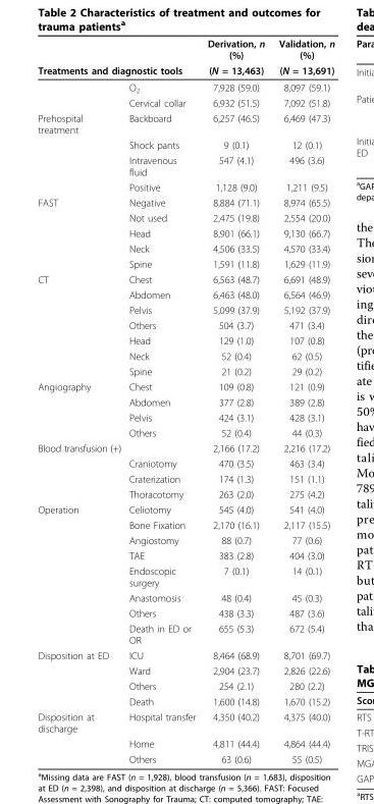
<table><thead><tr><td></td><td></td><td rowspan="2">Derivation, n (%) (N = 13,463)</td><td rowspan="2">Validation, n (%) (N = 13,691)</td></tr><tr><td colspan="2">Treatments and diagnostic tools</td></tr></thead><tbody><tr><td></td><td>O<sub>2</sub></td><td>7,928 (59.0)</td><td>8,097 (59.1)</td></tr><tr><td></td><td>Cervical collar</td><td>6,932 (51.5)</td><td>7,092 (51.8)</td></tr><tr><td rowspan="4">Prehospital treatment</td><td>Backboard</td><td>6,257 (46.5)</td><td>6,469 (47.3)</td></tr><tr><td>Shock pants</td><td>9 (0.1)</td><td>12 (0.1)</td></tr><tr><td>Intravenous fluid</td><td>547 (4.1)</td><td>496 (3.6)</td></tr><tr><td>Positive</td><td>1,128 (9.0)</td><td>1,211 (9.5)</td></tr><tr><td rowspan="5">FAST</td><td>Negative</td><td>8,884 (71.1)</td><td>8,974 (65.5)</td></tr><tr><td>Not used</td><td>2,475 (19.8)</td><td>2,554 (20.0)</td></tr><tr><td>Head</td><td>8,901 (66.1)</td><td>9,130 (66.7)</td></tr><tr><td>Neck</td><td>4,506 (33.5)</td><td>4,570 (33.4)</td></tr><tr><td>Spine</td><td>1,591 (11.8)</td><td>1,629 (11.9)</td></tr><tr><td rowspan="7">CT</td><td>Chest</td><td>6,563 (48.7)</td><td>6,691 (48.9)</td></tr><tr><td>Abdomen</td><td>6,463 (48.0)</td><td>6,564 (46.9)</td></tr><tr><td>Pelvis</td><td>5,099 (37.9)</td><td>5,192 (37.9)</td></tr><tr><td>Others</td><td>504 (3.7)</td><td>471 (3.4)</td></tr><tr><td>Head</td><td>129 (1.0)</td><td>107 (0.8)</td></tr><tr><td>Neck</td><td>52 (0.4)</td><td>62 (0.5)</td></tr><tr><td>Spine</td><td>21 (0.2)</td><td>29 (0.2)</td></tr><tr><td rowspan="4">Angiography</td><td>Chest</td><td>109 (0.8)</td><td>121 (0.9)</td></tr><tr><td>Abdomen</td><td>377 (2.8)</td><td>389 (2.8)</td></tr><tr><td>Pelvis</td><td>424 (3.1)</td><td>428 (3.1)</td></tr><tr><td>Others</td><td>52 (0.4)</td><td>44 (0.3)</td></tr><tr><td rowspan="4">Blood transfusion (+)</td><td></td><td>2,166 (17.2)</td><td>2,216 (17.2)</td></tr><tr><td>Craniotomy</td><td>470 (3.5)</td><td>463 (3.4)</td></tr><tr><td>Craterization</td><td>174 (1.3)</td><td>151 (1.1)</td></tr><tr><td>Thoracotomy</td><td>263 (2.0)</td><td>275 (4.2)</td></tr><tr><td rowspan="8">Operation</td><td>Celiotomy</td><td>545 (4.0)</td><td>541 (4.0)</td></tr><tr><td>Bone Fixation</td><td>2,170 (16.1)</td><td>2,117 (15.5)</td></tr><tr><td>Angiostomy</td><td>88 (0.7)</td><td>77 (0.6)</td></tr><tr><td>TAE</td><td>383 (2.8)</td><td>404 (3.0)</td></tr><tr><td>Endoscopic surgery</td><td>7 (0.1)</td><td>14 (0.1)</td></tr><tr><td>Anastomosis</td><td>48 (0.4)</td><td>45 (0.3)</td></tr><tr><td>Others</td><td>438 (3.3)</td><td>487 (3.6)</td></tr><tr><td>Death in ED or OR</td><td>655 (5.3)</td><td>672 (5.4)</td></tr><tr><td rowspan="4">Disposition at ED</td><td>ICU</td><td>8,464 (68.9)</td><td>8,701 (69.7)</td></tr><tr><td>Ward</td><td>2,904 (23.7)</td><td>2,826 (22.6)</td></tr><tr><td>Others</td><td>254 (2.1)</td><td>280 (2.2)</td></tr><tr><td>Death</td><td>1,600 (14.8)</td><td>1,670 (15.2)</td></tr><tr><td rowspan="3">Disposition at discharge</td><td>Hospital transfer</td><td>4,350 (40.2)</td><td>4,375 (40.0)</td></tr><tr><td>Home</td><td>4,811 (44.4)</td><td>4,864 (44.4)</td></tr><tr><td>Others</td><td>63 (0.6)</td><td>55 (0.5)</td></tr></tbody></table>